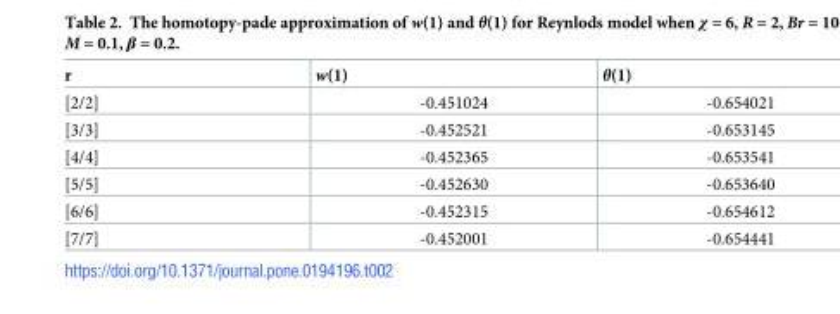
<table><thead><tr><td>r</td><td>w(1)</td><td>θ(1)</td></tr></thead><tbody><tr><td>[2/2]</td><td>-0.451024</td><td>-0.654021</td></tr><tr><td>[3/3]</td><td>-0.452521</td><td>-0.653145</td></tr><tr><td>[4/4]</td><td>-0.452365</td><td>-0.653541</td></tr><tr><td>[5/5]</td><td>-0.452630</td><td>-0.653640</td></tr><tr><td>[6/6]</td><td>-0.452315</td><td>-0.654612</td></tr><tr><td>[7/7]</td><td>-0.452001</td><td>-0.654441</td></tr></tbody></table>